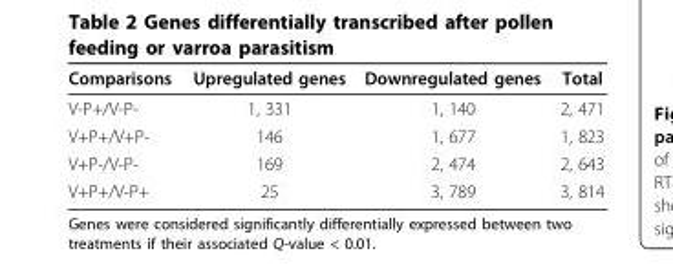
<table><thead><tr><td>Comparisons</td><td>Upregulated genes</td><td>Downregulated genes</td><td>Total</td></tr></thead><tbody><tr><td>V-P+/V-P-</td><td>1, 331</td><td>1, 140</td><td>2, 471</td></tr><tr><td>V+P+/V+P-</td><td>146</td><td>1, 677</td><td>1, 823</td></tr><tr><td>V+P-/V-P-</td><td>169</td><td>2, 474</td><td>2, 643</td></tr><tr><td>V+P+/V-P+</td><td>25</td><td>3, 789</td><td>3, 814</td></tr></tbody></table>